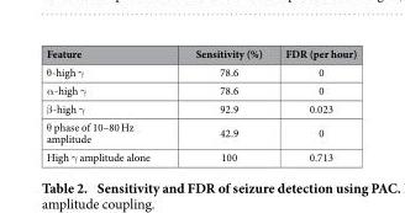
<table><thead><tr><td>Feature</td><td>Sensitivity (%)</td><td>FDR (per hour)</td></tr></thead><tbody><tr><td>θ -high γ</td><td>78.6</td><td>0</td></tr><tr><td>α -high γ</td><td>78.6</td><td>0</td></tr><tr><td>β -high γ</td><td>92.9</td><td>0.023</td></tr><tr><td>θ phase of 10–80 Hz amplitude</td><td>42.9</td><td>0</td></tr><tr><td>High γ amplitude alone</td><td>100</td><td>0.713</td></tr></tbody></table>